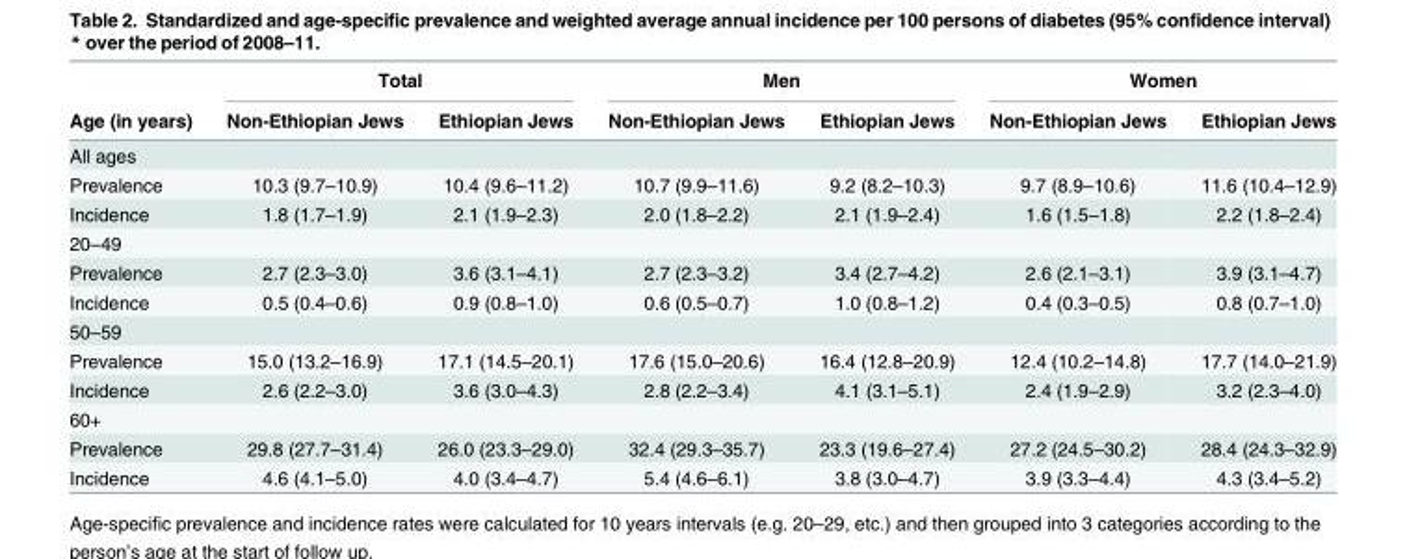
<table><thead><tr><td rowspan="2">Age (in years)</td><td colspan="2">Total</td><td colspan="2">Men</td><td colspan="2">Women</td></tr><tr><td>Non-Ethiopian Jews</td><td>Ethiopian Jews</td><td>Non-Ethiopian Jews</td><td>Ethiopian Jews</td><td>Non-Ethiopian Jews</td><td>Ethiopian Jews</td></tr></thead><tbody><tr><td colspan="7">All ages</td></tr><tr><td>Prevalence</td><td>10.3 (9.7–10.9)</td><td>10.4 (9.6–11.2)</td><td>10.7 (9.9–11.6)</td><td>9.2 (8.2–10.3)</td><td>9.7 (8.9–10.6)</td><td>11.6 (10.4–12.9)</td></tr><tr><td>Incidence</td><td>1.8 (1.7–1.9)</td><td>2.1 (1.9–2.3)</td><td>2.0 (1.8–2.2)</td><td>2.1 (1.9–2.4)</td><td>1.6 (1.5–1.8)</td><td>2.2 (1.8–2.4)</td></tr><tr><td colspan="7">20–49</td></tr><tr><td>Prevalence</td><td>2.7 (2.3–3.0)</td><td>3.6 (3.1–4.1)</td><td>2.7 (2.3–3.2)</td><td>3.4 (2.7–4.2)</td><td>2.6 (2.1–3.1)</td><td>3.9 (3.1–4.7)</td></tr><tr><td>Incidence</td><td>0.5 (0.4–0.6)</td><td>0.9 (0.8–1.0)</td><td>0.6 (0.5–0.7)</td><td>1.0 (0.8–1.2)</td><td>0.4 (0.3–0.5)</td><td>0.8 (0.7–1.0)</td></tr><tr><td colspan="7">50–59</td></tr><tr><td>Prevalence</td><td>15.0 (13.2–16.9)</td><td>17.1 (14.5–20.1)</td><td>17.6 (15.0–20.6)</td><td>16.4 (12.8–20.9)</td><td>12.4 (10.2–14.8)</td><td>17.7 (14.0–21.9)</td></tr><tr><td>Incidence</td><td>2.6 (2.2–3.0)</td><td>3.6 (3.0–4.3)</td><td>2.8 (2.2–3.4)</td><td>4.1 (3.1–5.1)</td><td>2.4 (1.9–2.9)</td><td>3.2 (2.3–4.0)</td></tr><tr><td colspan="7">60+</td></tr><tr><td>Prevalence</td><td>29.8 (27.7–31.4)</td><td>26.0 (23.3–29.0)</td><td>32.4 (29.3–35.7)</td><td>23.3 (19.6–27.4)</td><td>27.2 (24.5–30.2)</td><td>28.4 (24.3–32.9)</td></tr><tr><td>Incidence</td><td>4.6 (4.1–5.0)</td><td>4.0 (3.4–4.7)</td><td>5.4 (4.6–6.1)</td><td>3.8 (3.0–4.7)</td><td>3.9 (3.3–4.4)</td><td>4.3 (3.4–5.2)</td></tr></tbody></table>